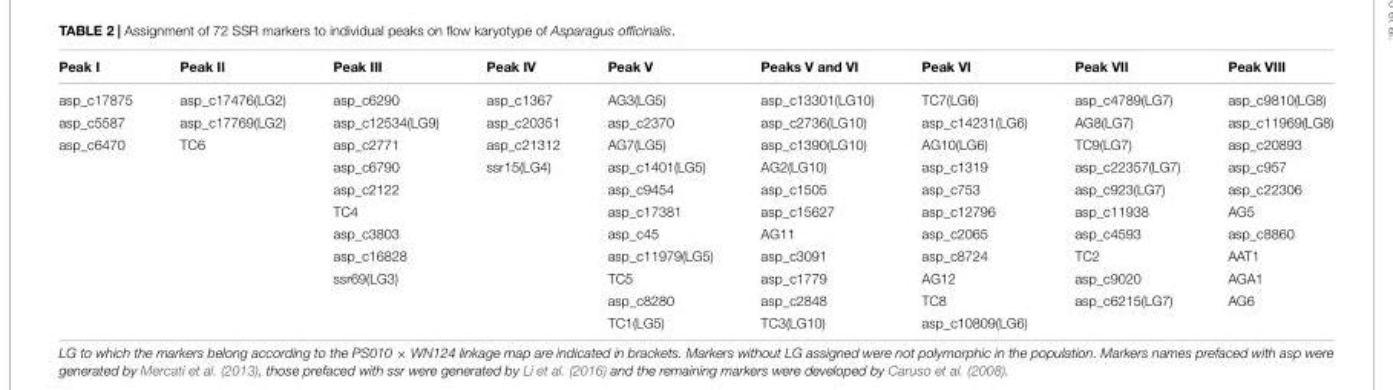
<table><thead><tr><td>Peak I</td><td>Peak II</td><td>Peak III</td><td>Peak IV</td><td>Peak V</td><td>Peaks V and VI</td><td>Peak VI</td><td>Peak VII</td><td>Peak VIII</td></tr></thead><tbody><tr><td>asp_c17875</td><td>asp_c17476(LG2)</td><td>asp_c6290</td><td>asp_c1367</td><td>AG3(LG5)</td><td>asp_c13301(LG10)</td><td>TC7(LG6)</td><td>asp_c4789(LG7)</td><td>asp_c9810(LG8)</td></tr><tr><td>asp_c5587</td><td>asp_c17769(LG2)</td><td>asp_c12534(LG9)</td><td>asp_c20351</td><td>asp_c2370</td><td>asp_c2736(LG10)</td><td>asp_c14231(LG6)</td><td>AG8(LG7)</td><td>asp_c11969(LG8)</td></tr><tr><td rowspan="9">asp_c6470</td><td>TC6</td><td>asp_c2771</td><td>asp_c21312</td><td>AG7(LG5)</td><td>asp_c1390(LG10)</td><td>AG10(LG6)</td><td>TC9(LG7)</td><td>asp_c20893</td></tr><tr><td></td><td>asp_c6790</td><td>ssr15(LG4)</td><td>asp_c1401(LG5)</td><td>AG2(LG10)</td><td>asp_c1319</td><td>asp_c22357(LG7)</td><td>asp_c957</td></tr><tr><td></td><td>asp_c2122</td><td></td><td>asp_c9454</td><td>asp_c1505</td><td>asp_c753</td><td>asp_c923(LG7)</td><td>asp_c22306</td></tr><tr><td></td><td>TC4</td><td></td><td>asp_c17381</td><td>asp_c15627</td><td>asp_c12796</td><td>asp_c11938</td><td>AG5</td></tr><tr><td></td><td>asp_c3803</td><td></td><td>asp_c45</td><td>AG11</td><td>asp_c2065</td><td>asp_c4593</td><td>asp_c8860</td></tr><tr><td></td><td>asp_c16828</td><td></td><td>asp_c11979(LG5)</td><td>asp_c3091</td><td>asp_c8724</td><td>TC2</td><td>AAT1</td></tr><tr><td></td><td>ssr69(LG3)</td><td></td><td>TC5</td><td>asp_c1779</td><td>AG12</td><td>asp_c9020</td><td>AGA1</td></tr><tr><td></td><td></td><td></td><td>asp_c8280</td><td>asp_c2848</td><td>TC8</td><td>asp_c6215(LG7)</td><td>AG6</td></tr><tr><td></td><td></td><td></td><td>TC1(LG5)</td><td>TC3(LG10)</td><td>asp_c10809(LG6)</td><td></td><td></td></tr></tbody></table>